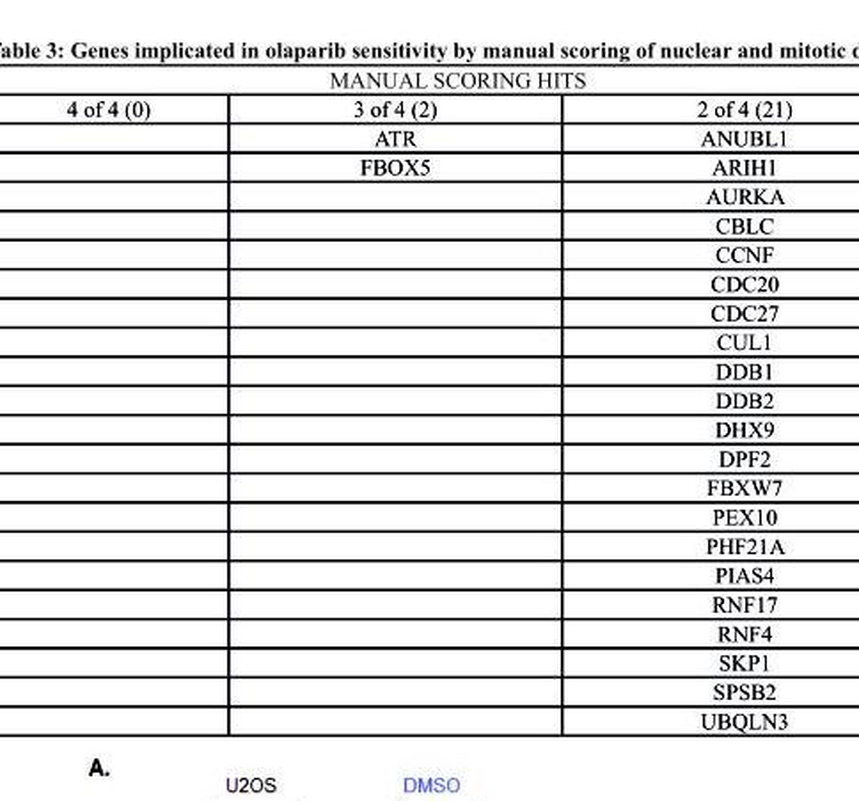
<table><thead><tr><td colspan="3">MANUAL SCORING HITS</td></tr><tr><td>4 of 4 (0)</td><td>3 of 4 (2)</td><td>2 of 4 (21)</td></tr></thead><tbody><tr><td></td><td>ATR</td><td>ANUBL1</td></tr><tr><td></td><td>FBOX5</td><td>ARIH1</td></tr><tr><td></td><td></td><td>AURKA</td></tr><tr><td></td><td></td><td>CBLC</td></tr><tr><td></td><td></td><td>CCNF</td></tr><tr><td></td><td></td><td>CDC20</td></tr><tr><td></td><td></td><td>CDC27</td></tr><tr><td></td><td></td><td>CUL1</td></tr><tr><td></td><td></td><td>DDB1</td></tr><tr><td></td><td></td><td>DDB2</td></tr><tr><td></td><td></td><td>DHX9</td></tr><tr><td></td><td></td><td>DPF2</td></tr><tr><td></td><td></td><td>FBXW7</td></tr><tr><td></td><td></td><td>PEX10</td></tr><tr><td></td><td></td><td>PHF21A</td></tr><tr><td></td><td></td><td>PIAS4</td></tr><tr><td></td><td></td><td>RNF17</td></tr><tr><td></td><td></td><td>RNF4</td></tr><tr><td></td><td></td><td>SKP1</td></tr><tr><td></td><td></td><td>SPSB2</td></tr><tr><td></td><td></td><td>UBQLN3</td></tr></tbody></table>